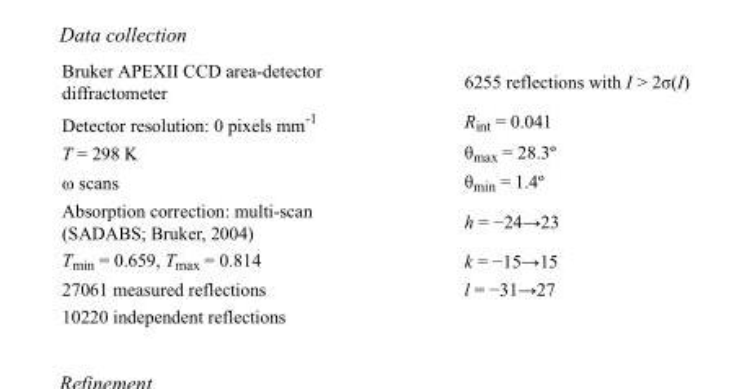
<table><tbody><tr><td>Bruker APEXII CCD area-detector diffractometer</td><td>6255 reflections with I &gt; 2σ(I)</td></tr><tr><td>Detector resolution: 0 pixels mm<sup>-1</sup></td><td>R<sub>int</sub> = 0.041</td></tr><tr><td>T = 298 K ω scans</td><td>θmax = 28.3º θmin = 1.4º</td></tr><tr><td>Absorption correction: multi-scan (SADABS; Bruker, 2004)</td><td>h = −24→23</td></tr><tr><td>T<sub>min</sub> = 0.659, T<sub>max</sub> = 0.814</td><td>k = −15→15</td></tr><tr><td>27061 measured reflections</td><td>l = −31→27</td></tr><tr><td>10220 independent reflections</td><td></td></tr></tbody></table>